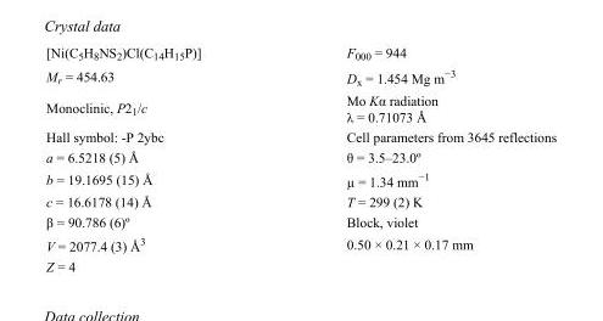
<table><tbody><tr><td>[Ni(C<sub>5</sub>H<sub>8</sub>NS<sub>2</sub>)Cl(C<sub>14</sub>H<sub>15</sub>P)]</td><td>F<sub>000</sub> = 944</td></tr><tr><td>M<sub>r</sub> = 454.63</td><td>D<sub>x</sub> = 1.454 Mg m<sup>−3</sup></td></tr><tr><td>Monoclinic, P2<sub>1</sub>/c</td><td>Mo Kα radiation λ = 0.71073 Å</td></tr><tr><td>Hall symbol: -P 2ybc</td><td>Cell parameters from 3645 reflections</td></tr><tr><td>a = 6.5218 (5) Å</td><td>θ = 3.5–23.0º</td></tr><tr><td>b = 19.1695 (15) Å</td><td>µ = 1.34 mm<sup>−1</sup></td></tr><tr><td>c = 16.6178 (14) Å</td><td>T = 299 (2) K</td></tr><tr><td>β = 90.786 (6)º</td><td>Block, violet</td></tr><tr><td>V = 2077.4 (3) Å<sup>3</sup></td><td>0.50 × 0.21 × 0.17 mm</td></tr><tr><td>Z = 4</td><td></td></tr></tbody></table>